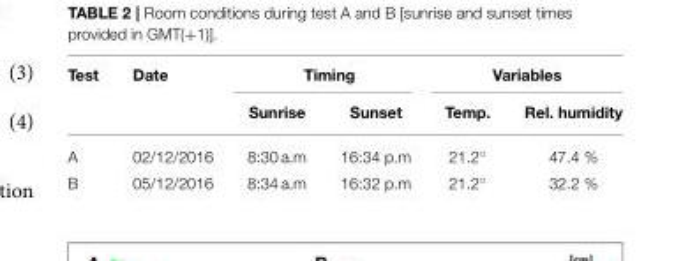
<table><thead><tr><td rowspan="2">Test</td><td rowspan="2">Date</td><td colspan="2">Timing</td><td colspan="2">Variables</td></tr><tr><td>Sunrise</td><td>Sunset</td><td>Temp.</td><td>Rel. humidity</td></tr></thead><tbody><tr><td>A</td><td>02/12/2016</td><td>8:30 a.m</td><td>16:34 p.m</td><td>21.2◦</td><td>47.4 %</td></tr><tr><td>B</td><td>05/12/2016</td><td>8:34 a.m</td><td>16:32 p.m</td><td>21.2◦</td><td>32.2 %</td></tr></tbody></table>